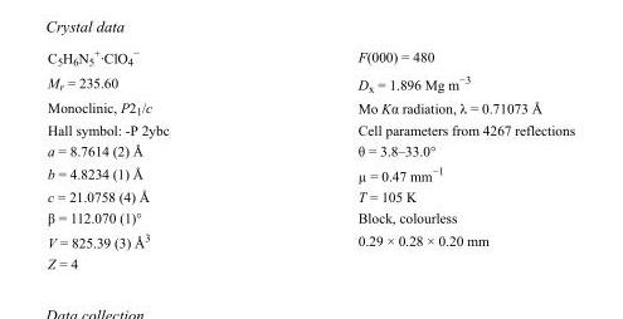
<table><tbody><tr><td>C<sub>5</sub>H<sub>6</sub>N<sub>5</sub> <sup>+</sup>·ClO<sub>4</sub> <sup>−</sup></td><td>F(000) = 480</td></tr><tr><td>M<sub>r</sub> = 235.60</td><td>D<sub>x</sub> = 1.896 Mg m<sup>−3</sup></td></tr><tr><td>Monoclinic, P2<sub>1</sub>/c</td><td>Mo Kα radiation, λ = 0.71073 Å</td></tr><tr><td>Hall symbol: -P 2ybc</td><td>Cell parameters from 4267 reflections</td></tr><tr><td>a = 8.7614 (2) Å</td><td>θ = 3.8–33.0°</td></tr><tr><td>b = 4.8234 (1) Å</td><td>µ = 0.47 mm<sup>−1</sup></td></tr><tr><td>c = 21.0758 (4) Å</td><td>T = 105 K</td></tr><tr><td>β = 112.070 (1)°</td><td>Block, colourless</td></tr><tr><td>V = 825.39 (3) Å<sup>3</sup></td><td>0.29 × 0.28 × 0.20 mm</td></tr><tr><td>Z = 4</td><td></td></tr></tbody></table>